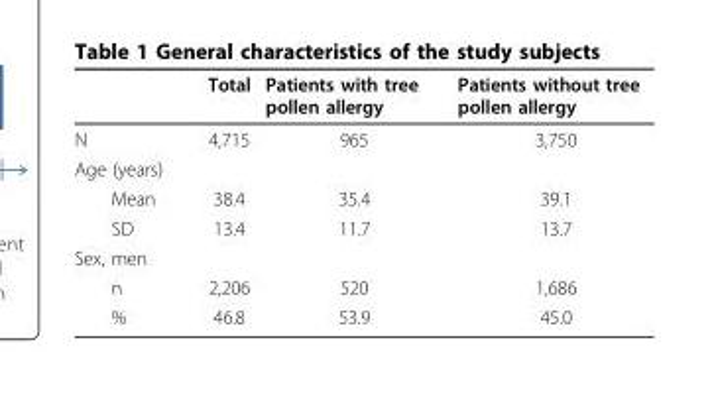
<table><thead><tr><td></td><td>Total</td><td>Patients with tree pollen allergy</td><td>Patients without tree pollen allergy</td></tr></thead><tbody><tr><td>N</td><td>4,715</td><td>965</td><td>3,750</td></tr><tr><td colspan="4">Age (years)</td></tr><tr><td>Mean</td><td>38.4</td><td>35.4</td><td>39.1</td></tr><tr><td>SD</td><td>13.4</td><td>11.7</td><td>13.7</td></tr><tr><td colspan="4">Sex, men</td></tr><tr><td>n</td><td>2,206</td><td>520</td><td>1,686</td></tr><tr><td>%</td><td>46.8</td><td>53.9</td><td>45.0</td></tr></tbody></table>